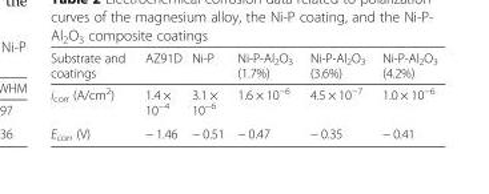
<table><thead><tr><td>Substrate and coatings</td><td>AZ91D</td><td>Ni-P</td><td>Ni-P-Al<sub>2</sub>O<sub>3</sub> (1.7%)</td><td>Ni-P-Al<sub>2</sub>O<sub>3</sub> (3.6%)</td><td>Ni-P-Al<sub>2</sub>O<sub>3</sub> (4.2%)</td></tr></thead><tbody><tr><td>i<sub>corr</sub> (A/cm<sup>2</sup>)</td><td>1.4 × 10<sup>−4</sup></td><td>3.1 × 10<sup>−6</sup></td><td>1.6 × 10<sup>−6</sup></td><td>4.5 × 10<sup>−7</sup></td><td>1.0 × 10<sup>−6</sup></td></tr><tr><td>E<sub>corr</sub> (V)</td><td>− 1.46</td><td>− 0.51</td><td>− 0.47</td><td>− 0.35</td><td>− 0.41</td></tr></tbody></table>